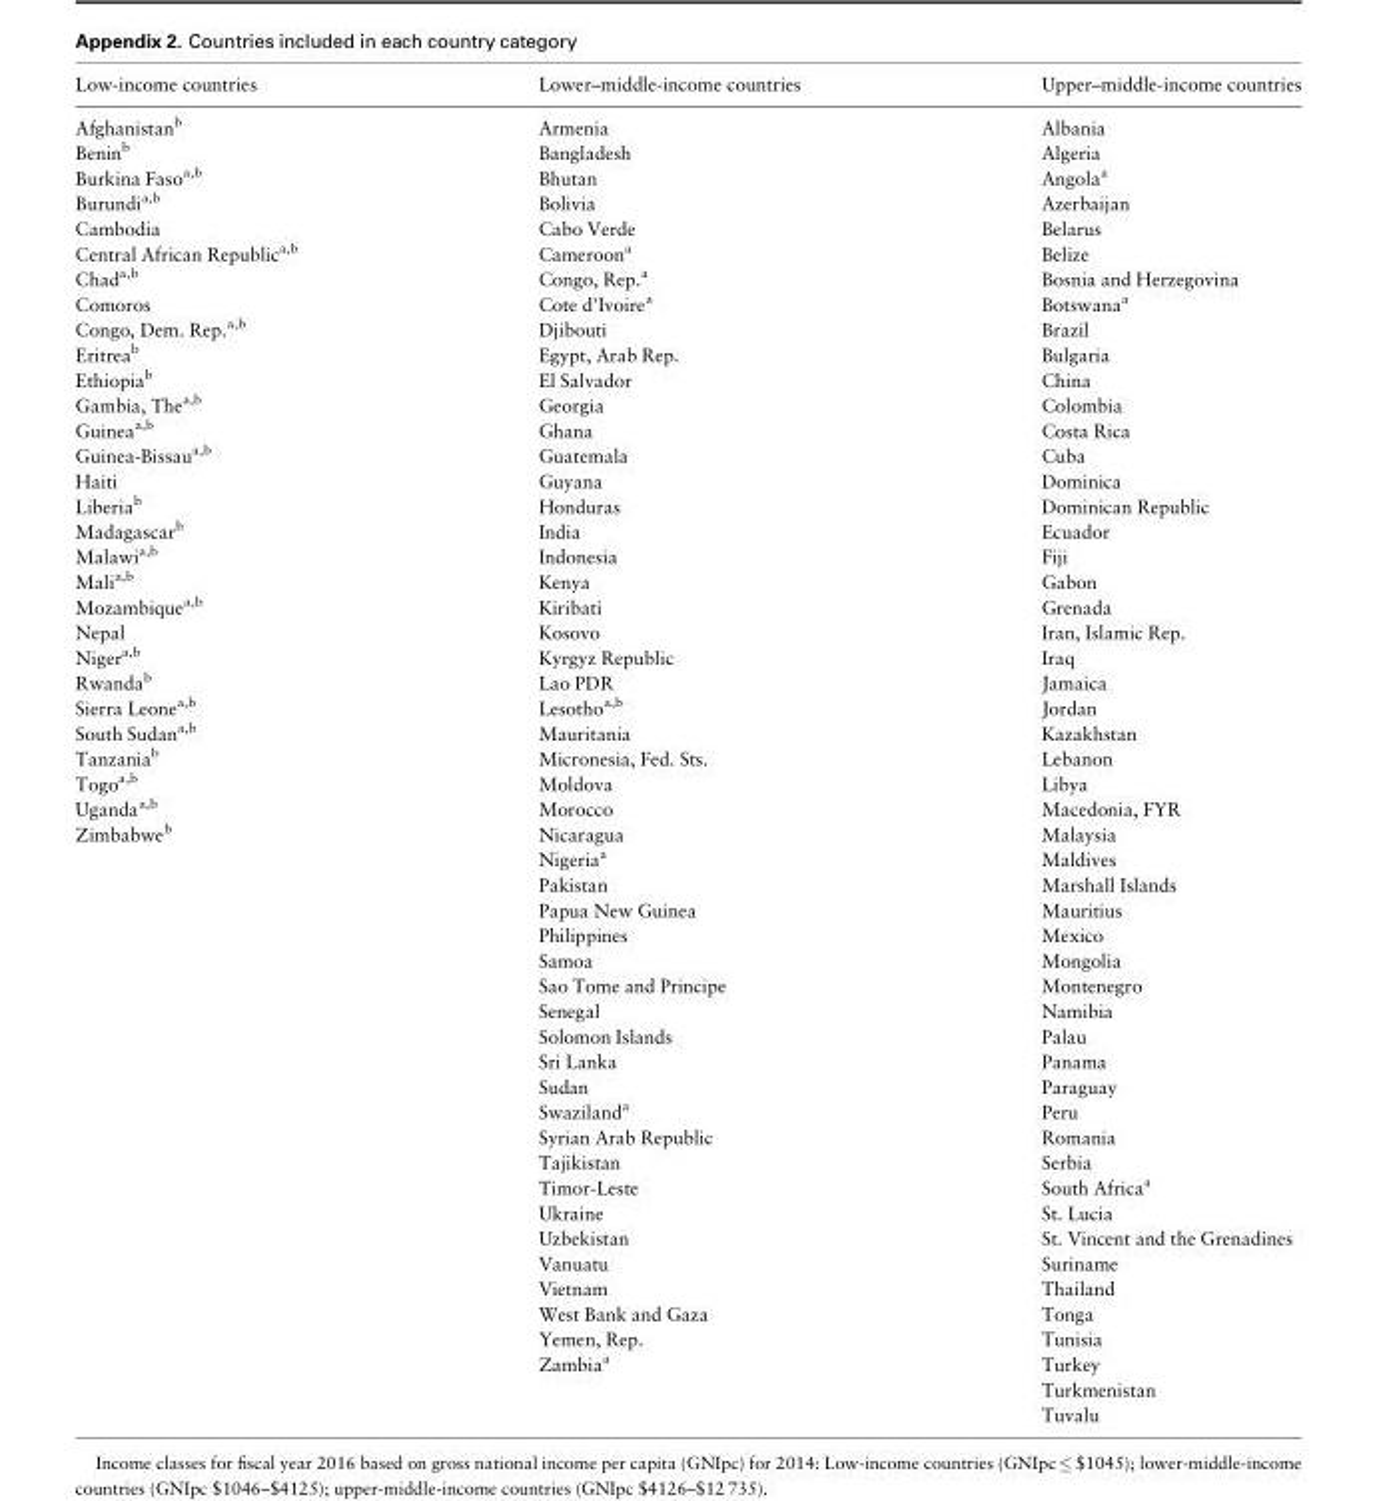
<table><thead><tr><td>Low-income countries</td><td>Lower–middle-income countries</td><td>Upper–middle-income countries</td></tr></thead><tbody><tr><td>Afghanistan<sup>b</sup></td><td>Armenia</td><td>Albania</td></tr><tr><td>Benin<sup>b</sup></td><td>Bangladesh</td><td>Algeria</td></tr><tr><td>Burkina Faso<sup>a,b</sup></td><td>Bhutan</td><td>Angola<sup>a</sup></td></tr><tr><td>Burundi<sup>a,b</sup></td><td>Bolivia</td><td>Azerbaijan</td></tr><tr><td>Cambodia</td><td>Cabo Verde</td><td>Belarus</td></tr><tr><td>Central African Republic<sup>a,b</sup></td><td>Cameroon<sup>a</sup></td><td>Belize</td></tr><tr><td>Chad<sup>a,b</sup></td><td>Congo, Rep.<sup>a</sup></td><td>Bosnia and Herzegovina</td></tr><tr><td>Comoros</td><td>Cote d’Ivoire<sup>a</sup></td><td>Botswana<sup>a</sup></td></tr><tr><td>Congo, Dem. Rep.<sup>a,b</sup></td><td>Djibouti</td><td>Brazil</td></tr><tr><td>Eritrea<sup>b</sup></td><td>Egypt, Arab Rep.</td><td>Bulgaria</td></tr><tr><td>Ethiopia<sup>b</sup></td><td>El Salvador</td><td>China</td></tr><tr><td>Gambia, The<sup>a,b</sup></td><td>Georgia</td><td>Colombia</td></tr><tr><td>Guinea<sup>a,b</sup></td><td>Ghana</td><td>Costa Rica</td></tr><tr><td>Guinea-Bissau<sup>a,b</sup></td><td>Guatemala</td><td>Cuba</td></tr><tr><td>Haiti</td><td>Guyana</td><td>Dominica</td></tr><tr><td>Liberia<sup>b</sup></td><td>Honduras</td><td>Dominican Republic</td></tr><tr><td>Madagascar<sup>b</sup></td><td>India</td><td>Ecuador</td></tr><tr><td>Malawi<sup>a,b</sup></td><td>Indonesia</td><td>Fiji</td></tr><tr><td>Mali<sup>a,b</sup></td><td>Kenya</td><td>Gabon</td></tr><tr><td>Mozambique<sup>a,b</sup></td><td>Kiribati</td><td>Grenada</td></tr><tr><td>Nepal</td><td>Kosovo</td><td>Iran, Islamic Rep.</td></tr><tr><td>Niger<sup>a,b</sup></td><td>Kyrgyz Republic</td><td>Iraq</td></tr><tr><td>Rwanda<sup>b</sup></td><td>Lao PDR</td><td>Jamaica</td></tr><tr><td>Sierra Leone<sup>a,b</sup></td><td>Lesotho<sup>a,b</sup></td><td>Jordan</td></tr><tr><td>South Sudan<sup>a,b</sup></td><td>Mauritania</td><td>Kazakhstan</td></tr><tr><td>Tanzania<sup>b</sup></td><td>Micronesia, Fed. Sts.</td><td>Lebanon</td></tr><tr><td>Togo<sup>a,b</sup></td><td>Moldova</td><td>Libya</td></tr><tr><td>Uganda<sup>a,b</sup></td><td>Morocco</td><td>Macedonia, FYR</td></tr><tr><td rowspan="24">Zimbabwe<sup>b</sup></td><td>Nicaragua</td><td>Malaysia</td></tr><tr><td>Nigeria<sup>a</sup></td><td>Maldives</td></tr><tr><td>Pakistan</td><td>Marshall Islands</td></tr><tr><td>Papua New Guinea</td><td>Mauritius</td></tr><tr><td>Philippines</td><td>Mexico</td></tr><tr><td>Samoa</td><td>Mongolia</td></tr><tr><td>Sao Tome and Principe</td><td>Montenegro</td></tr><tr><td>Senegal</td><td>Namibia</td></tr><tr><td>Solomon Islands</td><td>Palau</td></tr><tr><td>Sri Lanka</td><td>Panama</td></tr><tr><td>Sudan</td><td>Paraguay</td></tr><tr><td>Swaziland<sup>a</sup></td><td>Peru</td></tr><tr><td>Syrian Arab Republic</td><td>Romania</td></tr><tr><td>Tajikistan</td><td>Serbia</td></tr><tr><td>Timor-Leste</td><td>South Africa<sup>a</sup></td></tr><tr><td>Ukraine</td><td>St. Lucia</td></tr><tr><td>Uzbekistan</td><td>St. Vincent and the Grenadines</td></tr><tr><td>Vanuatu</td><td>Suriname</td></tr><tr><td>Vietnam</td><td>Thailand</td></tr><tr><td>West Bank and Gaza</td><td>Tonga</td></tr><tr><td>Yemen, Rep.</td><td>Tunisia</td></tr><tr><td>Zambia<sup>a</sup></td><td>Turkey</td></tr><tr><td></td><td>Turkmenistan</td></tr><tr><td></td><td>Tuvalu</td></tr></tbody></table>